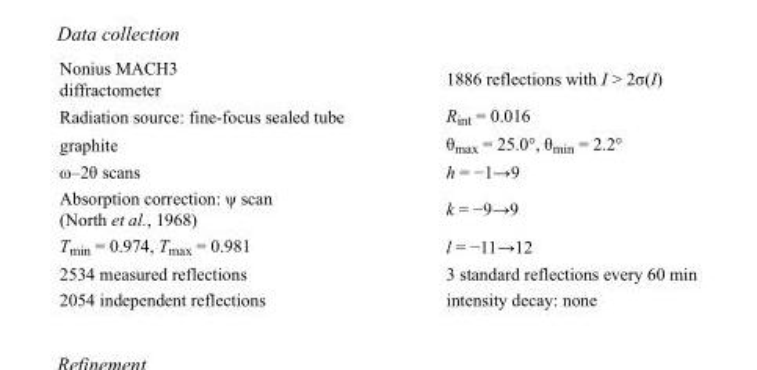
<table><tbody><tr><td>Nonius MACH3 diffractometer</td><td>1886 reflections with I &gt; 2σ(I)</td></tr><tr><td>Radiation source: fine-focus sealed tube</td><td>R<sub>int</sub> = 0.016</td></tr><tr><td>graphite</td><td>θ<sub>max</sub> = 25.0°, θ<sub>min</sub> = 2.2°</td></tr><tr><td>ω–2θ scans</td><td>h = −1→9</td></tr><tr><td>Absorption correction: ψ scan (North et al., 1968)</td><td>k = −9→9</td></tr><tr><td>T<sub>min</sub> = 0.974, T<sub>max</sub> = 0.981</td><td>l = −11→12</td></tr><tr><td>2534 measured reflections</td><td>3 standard reflections every 60 min</td></tr><tr><td>2054 independent reflections</td><td>intensity decay: none</td></tr></tbody></table>